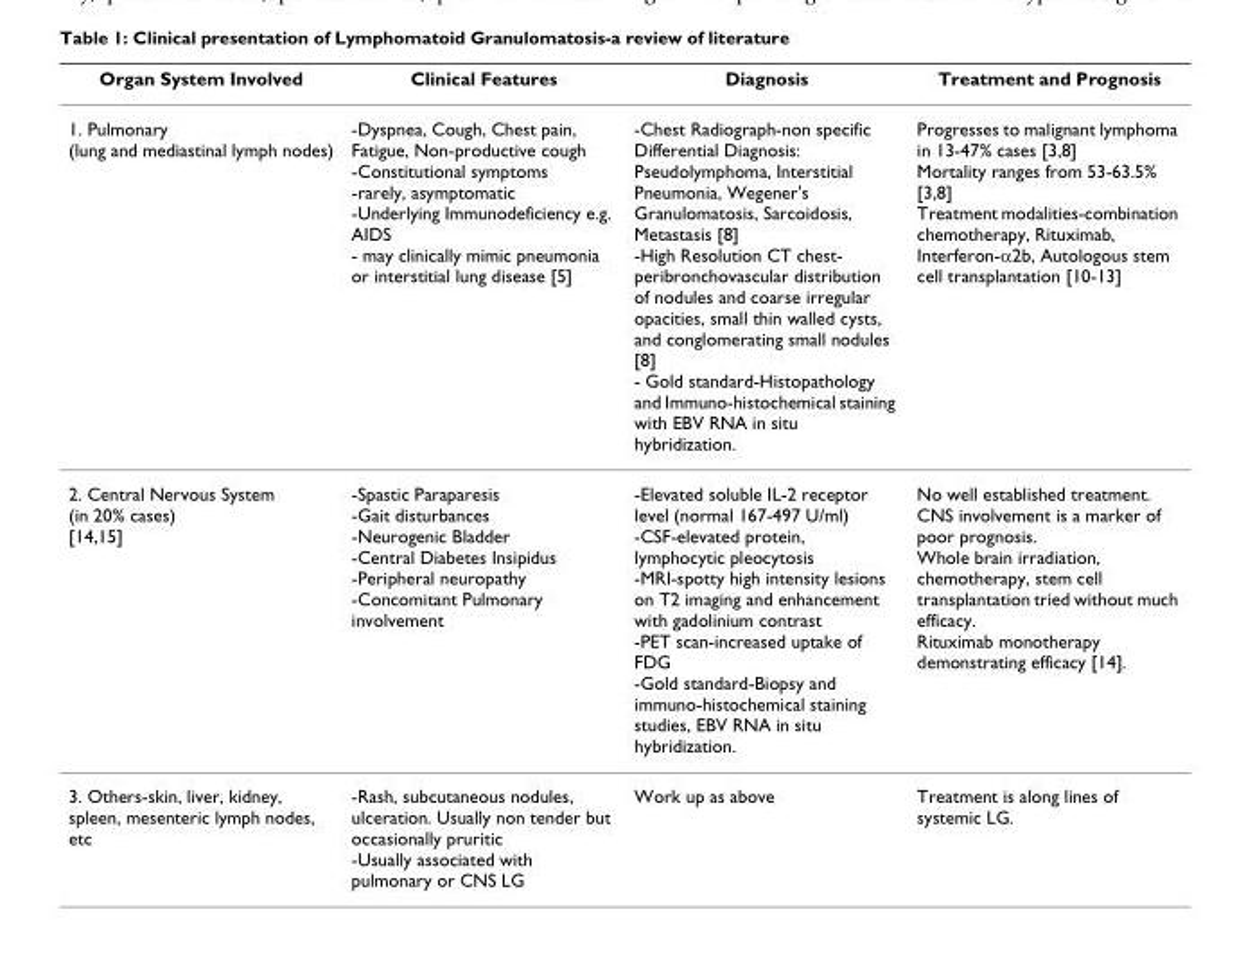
<table><thead><tr><td>Organ System Involved</td><td>Clinical Features</td><td>Diagnosis</td><td>Treatment and Prognosis</td></tr></thead><tbody><tr><td>1. Pulmonary (lung and mediastinal lymph nodes)</td><td>-Dyspnea, Cough, Chest pain, Fatigue, Non-productive cough -Constitutional symptoms -rarely, asymptomatic -Underlying Immunodeficiency e.g. AIDS - may clinically mimic pneumonia or interstitial lung disease [5]</td><td>-Chest Radiograph-non specific Differential Diagnosis: Pseudolymphoma, Interstitial Pneumonia, Wegener&#x27;s Granulomatosis, Sarcoidosis, Metastasis [8] -High Resolution CT chest- peribronchovascular distribution of nodules and coarse irregular opacities, small thin walled cysts, and conglomerating small nodules [8] - Gold standard-Histopathology and Immuno-histochemical staining with EBV RNA in situ hybridization.</td><td>Progresses to malignant lymphoma in 13-47% cases [3,8] Mortality ranges from 53-63.5% [3,8] Treatment modalities-combination chemotherapy, Rituximab, Interferon-α2b, Autologous stem cell transplantation [10-13]</td></tr><tr><td>2. Central Nervous System (in 20% cases) [14,15]</td><td>-Spastic Paraparesis -Gait disturbances -Neurogenic Bladder -Central Diabetes Insipidus -Peripheral neuropathy -Concomitant Pulmonary involvement</td><td>-Elevated soluble IL-2 receptor level (normal 167-497 U/ml) -CSF-elevated protein, lymphocytic pleocytosis -MRI-spotty high intensity lesions on T2 imaging and enhancement with gadolinium contrast -PET scan-increased uptake of FDG -Gold standard-Biopsy and immuno-histochemical staining studies, EBV RNA in situ hybridization.</td><td>No well established treatment. CNS involvement is a marker of poor prognosis. Whole brain irradiation, chemotherapy, stem cell transplantation tried without much efficacy. Rituximab monotherapy demonstrating efficacy [14].</td></tr><tr><td>3. Others-skin, liver, kidney, spleen, mesenteric lymph nodes, etc</td><td>-Rash, subcutaneous nodules, ulceration. Usually non tender but occasionally pruritic -Usually associated with pulmonary or CNS LG</td><td>Work up as above</td><td>Treatment is along lines of systemic LG.</td></tr></tbody></table>